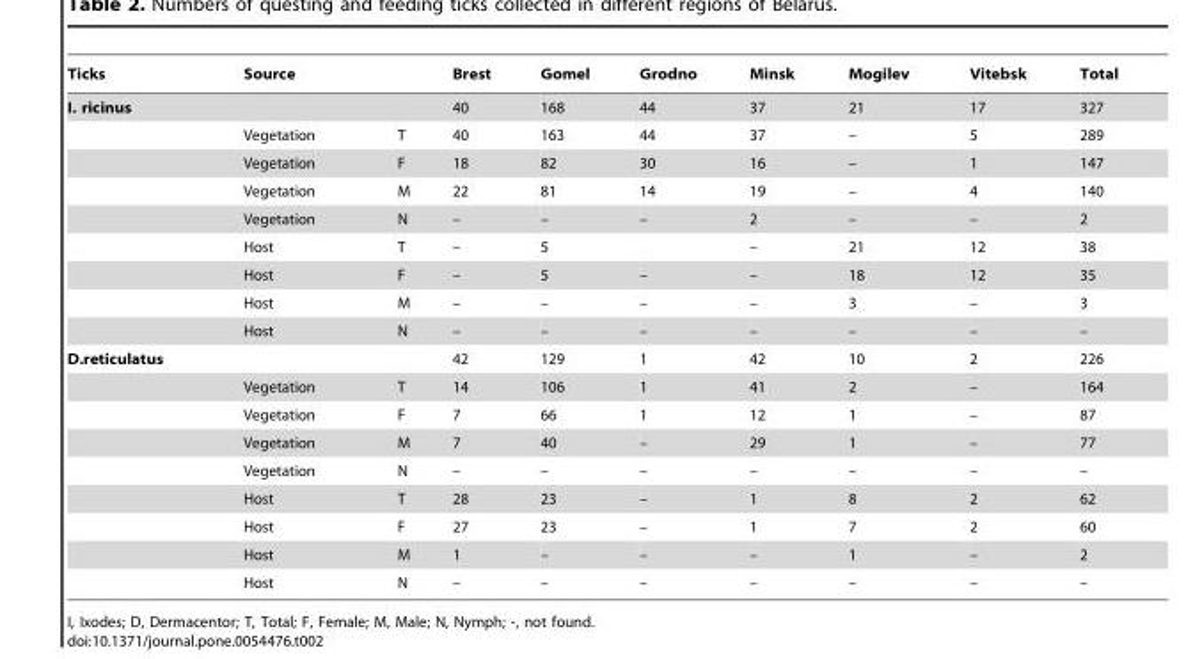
<table><thead><tr><td>Ticks</td><td>Source</td><td></td><td>Brest</td><td>Gomel</td><td>Grodno</td><td>Minsk</td><td>Mogilev</td><td>Vitebsk</td><td>Total</td></tr></thead><tbody><tr><td rowspan="9">I. ricinus</td><td></td><td></td><td>40</td><td>168</td><td>44</td><td>37</td><td>21</td><td>17</td><td>327</td></tr><tr><td>Vegetation</td><td>T</td><td>40</td><td>163</td><td>44</td><td>37</td><td>–</td><td>5</td><td>289</td></tr><tr><td>Vegetation</td><td>F</td><td>18</td><td>82</td><td>30</td><td>16</td><td>–</td><td>1</td><td>147</td></tr><tr><td>Vegetation</td><td>M</td><td>22</td><td>81</td><td>14</td><td>19</td><td>–</td><td>4</td><td>140</td></tr><tr><td>Vegetation</td><td>N</td><td>–</td><td>–</td><td>–</td><td>2</td><td>–</td><td>–</td><td>2</td></tr><tr><td>Host</td><td>T</td><td>–</td><td>5</td><td></td><td>–</td><td>21</td><td>12</td><td>38</td></tr><tr><td>Host</td><td>F</td><td>–</td><td>5</td><td>–</td><td>–</td><td>18</td><td>12</td><td>35</td></tr><tr><td>Host</td><td>M</td><td>–</td><td>–</td><td>–</td><td>–</td><td>3</td><td>–</td><td>3</td></tr><tr><td>Host</td><td>N</td><td>–</td><td>–</td><td>–</td><td>–</td><td>–</td><td>–</td><td>–</td></tr><tr><td rowspan="9">D.reticulatus</td><td></td><td></td><td>42</td><td>129</td><td>1</td><td>42</td><td>10</td><td>2</td><td>226</td></tr><tr><td>Vegetation</td><td>T</td><td>14</td><td>106</td><td>1</td><td>41</td><td>2</td><td>–</td><td>164</td></tr><tr><td>Vegetation</td><td>F</td><td>7</td><td>66</td><td>1</td><td>12</td><td>1</td><td>–</td><td>87</td></tr><tr><td>Vegetation</td><td>M</td><td>7</td><td>40</td><td>–</td><td>29</td><td>1</td><td>–</td><td>77</td></tr><tr><td>Vegetation</td><td>N</td><td>–</td><td>–</td><td>–</td><td>–</td><td>–</td><td>–</td><td>–</td></tr><tr><td>Host</td><td>T</td><td>28</td><td>23</td><td>–</td><td>1</td><td>8</td><td>2</td><td>62</td></tr><tr><td>Host</td><td>F</td><td>27</td><td>23</td><td>–</td><td>1</td><td>7</td><td>2</td><td>60</td></tr><tr><td>Host</td><td>M</td><td>1</td><td>–</td><td>–</td><td>–</td><td>1</td><td>–</td><td>2</td></tr><tr><td>Host</td><td>N</td><td>–</td><td>–</td><td>–</td><td>–</td><td>–</td><td>–</td><td>–</td></tr></tbody></table>